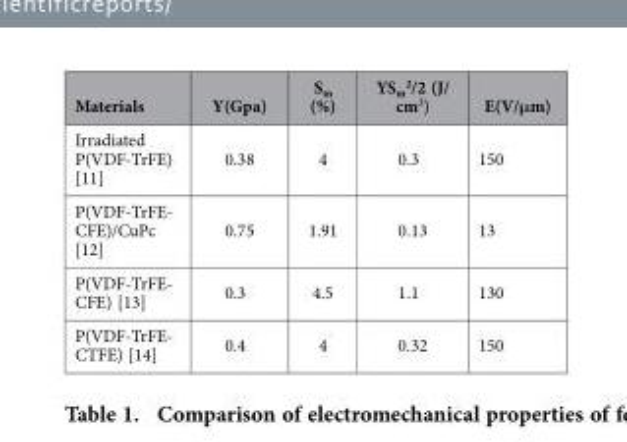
<table><thead><tr><td>Materials</td><td>Y(Gpa)</td><td>S<sub>m</sub> (%)</td><td>YS<sub>m</sub> <sup>2</sup>/2 (J/ cm<sup>3</sup>)</td><td>E(V/μm)</td></tr></thead><tbody><tr><td>Irradiated P(VDF-TrFE) [11]</td><td>0.38</td><td>4</td><td>0.3</td><td>150</td></tr><tr><td>P(VDF-TrFE- CFE)/CuPc [12]</td><td>0.75</td><td>1.91</td><td>0.13</td><td>13</td></tr><tr><td>P(VDF-TrFE- CFE) [13]</td><td>0.3</td><td>4.5</td><td>1.1</td><td>130</td></tr><tr><td>P(VDF-TrFE- CTFE) [14]</td><td>0.4</td><td>4</td><td>0.32</td><td>150</td></tr></tbody></table>